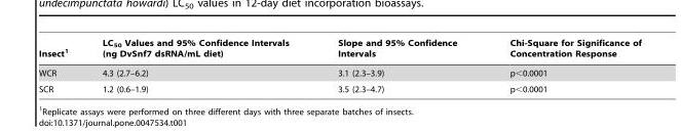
<table><thead><tr><td>Insect<sup>1</sup></td><td>LC<sub>50</sub> Values and 95% Confidence Intervals (ng DvSnf7 dsRNA/mL diet)</td><td>Slope and 95% Confidence Intervals</td><td>Chi-Square for Significance of Concentration Response</td></tr></thead><tbody><tr><td>WCR</td><td>4.3 (2.7–6.2)</td><td>3.1 (2.3–3.9)</td><td>p&lt;0.0001</td></tr><tr><td>SCR</td><td>1.2 (0.6–1.9)</td><td>3.5 (2.3–4.7)</td><td>p&lt;0.0001</td></tr></tbody></table>